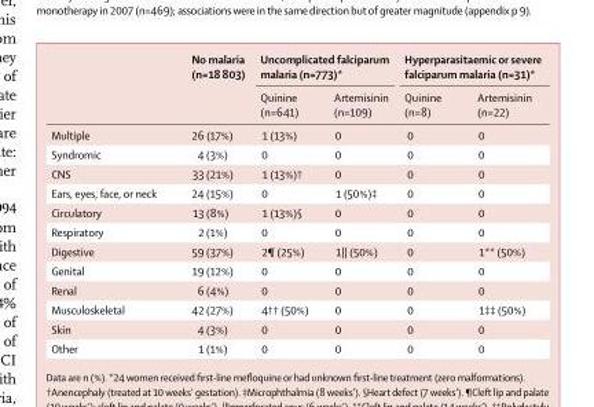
<table><thead><tr><td rowspan="2"></td><td rowspan="2">No malaria (n=18 803)</td><td colspan="2">Uncomplicated falciparum malaria (n=773)*</td><td colspan="2">Hyperparasitaemic or severe falciparum malaria (n=31)*</td></tr><tr><td>Quinine (n=641)</td><td>Artemisinin (n=109)</td><td>Quinine (n=8)</td><td>Artemisinin (n=22)</td></tr></thead><tbody><tr><td>Multiple</td><td>26 (17%)</td><td>1 (13%)</td><td>0</td><td>0</td><td>0</td></tr><tr><td>Syndromic</td><td>4 (3%)</td><td>0</td><td>0</td><td>0</td><td>0</td></tr><tr><td>CNS</td><td>33 (21%)</td><td>1 (13%)†</td><td>0</td><td>0</td><td>0</td></tr><tr><td>Ears, eyes, face, or neck</td><td>24 (15%)</td><td>0</td><td>1 (50%)‡</td><td>0</td><td>0</td></tr><tr><td>Circulatory</td><td>13 (8%)</td><td>1 (13%)§</td><td>0</td><td>0</td><td>0</td></tr><tr><td>Respiratory</td><td>2 (1%)</td><td>0</td><td>0</td><td>0</td><td>0</td></tr><tr><td>Digestive</td><td>59 (37%)</td><td>2¶ (25%)</td><td>1|| (50%)</td><td>0</td><td>1** (50%)</td></tr><tr><td>Genital</td><td>19 (12%)</td><td>0</td><td>0</td><td>0</td><td>0</td></tr><tr><td>Renal</td><td>6 (4%)</td><td>0</td><td>0</td><td>0</td><td>0</td></tr><tr><td>Musculoskeletal</td><td>42 (27%)</td><td>4†† (50%)</td><td>0</td><td>0</td><td>1‡‡ (50%)</td></tr><tr><td>Skin</td><td>4 (3%)</td><td>0</td><td>0</td><td>0</td><td>0</td></tr><tr><td>Other</td><td>1 (1%)</td><td>0</td><td>0</td><td>0</td><td>0</td></tr></tbody></table>